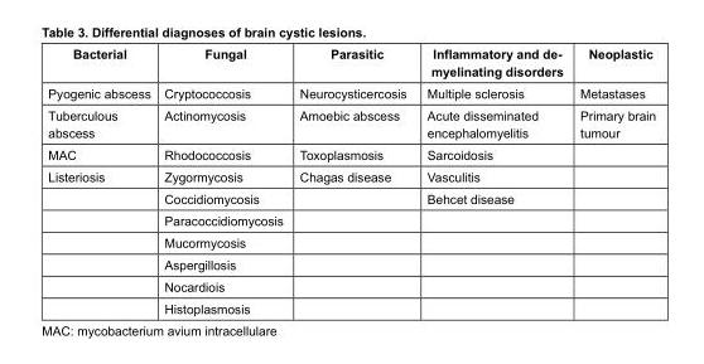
<table><thead><tr><td>Bacterial</td><td>Fungal</td><td>Parasitic</td><td>Inflammatory and de- myelinating disorders</td><td>Neoplastic</td></tr></thead><tbody><tr><td>Pyogenic abscess</td><td>Cryptococcosis</td><td>Neurocysticercosis</td><td>Multiple sclerosis</td><td>Metastases</td></tr><tr><td>Tuberculous abscess</td><td>Actinomycosis</td><td>Amoebic abscess</td><td>Acute disseminated encephalomyelitis</td><td>Primary brain tumour</td></tr><tr><td>MAC</td><td>Rhodococcosis</td><td>Toxoplasmosis</td><td>Sarcoidosis</td><td></td></tr><tr><td rowspan="7">Listeriosis</td><td>Zygormycosis</td><td>Chagas disease</td><td>Vasculitis</td><td></td></tr><tr><td>Coccidiomycosis</td><td></td><td>Behcet disease</td><td></td></tr><tr><td>Paracoccidiomycosis</td><td></td><td></td><td></td></tr><tr><td>Mucormycosis</td><td></td><td></td><td></td></tr><tr><td>Aspergillosis</td><td></td><td></td><td></td></tr><tr><td>Nocardiois</td><td></td><td></td><td></td></tr><tr><td>Histoplasmosis</td><td></td><td></td><td></td></tr></tbody></table>